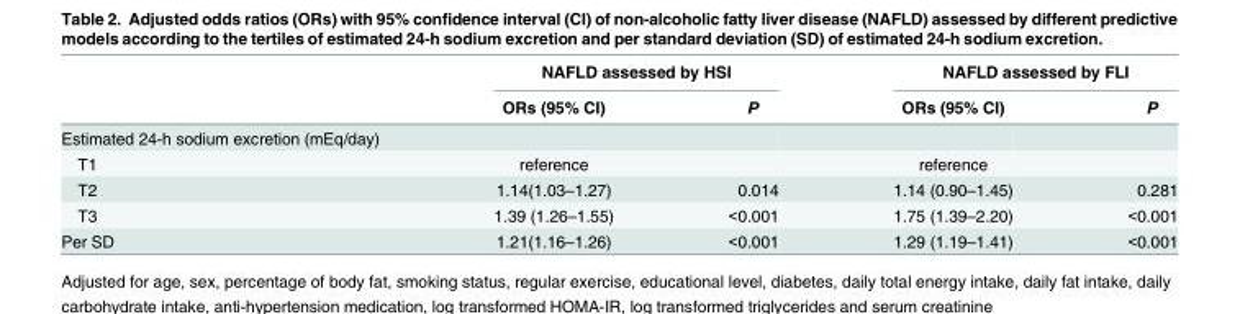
<table><thead><tr><td rowspan="2"></td><td colspan="2">NAFLD assessed by HSI</td><td colspan="2">NAFLD assessed by FLI</td></tr><tr><td>ORs (95% CI)</td><td>P</td><td>ORs (95% CI)</td><td>P</td></tr></thead><tbody><tr><td colspan="5">Estimated 24-h sodium excretion (mEq/day)</td></tr><tr><td>T1</td><td>reference</td><td></td><td>reference</td><td></td></tr><tr><td>T2</td><td>1.14(1.03–1.27)</td><td>0.014</td><td>1.14 (0.90–1.45)</td><td>0.281</td></tr><tr><td>T3</td><td>1.39 (1.26–1.55)</td><td>&lt;0.001</td><td>1.75 (1.39–2.20)</td><td>&lt;0.001</td></tr><tr><td>Per SD</td><td>1.21(1.16–1.26)</td><td>&lt;0.001</td><td>1.29 (1.19–1.41)</td><td>&lt;0.001</td></tr></tbody></table>